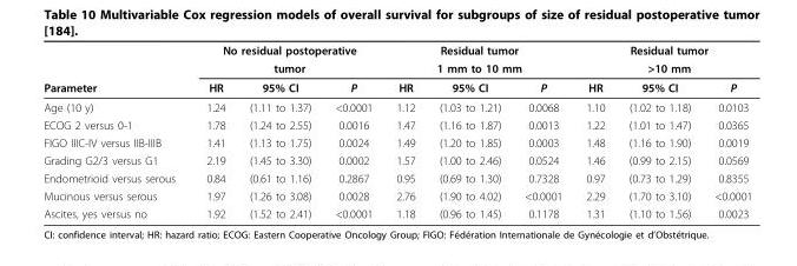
<table><thead><tr><td rowspan="3">Parameter</td><td rowspan="2" colspan="3">No residual postoperative tumor</td><td rowspan="2" colspan="3">Residual tumor 1 mm to 10 mm</td><td rowspan="2" colspan="3">Residual tumor &gt;10 mm</td></tr><tr></tr><tr><td>HR</td><td>95% CI</td><td>P</td><td>HR</td><td>95% CI</td><td>P</td><td>HR</td><td>95% CI</td><td>P</td></tr></thead><tbody><tr><td>Age (10 y)</td><td>1.24</td><td>(1.11 to 1.37)</td><td>&lt;0.0001</td><td>1.12</td><td>(1.03 to 1.21)</td><td>0.0068</td><td>1.10</td><td>(1.02 to 1.18)</td><td>0.0103</td></tr><tr><td>ECOG 2 versus 0-1</td><td>1.78</td><td>(1.24 to 2.55)</td><td>0.0016</td><td>1.47</td><td>(1.16 to 1.87)</td><td>0.0013</td><td>1.22</td><td>(1.01 to 1.47)</td><td>0.0365</td></tr><tr><td>FIGO IIIC-IV versus IIB-IIIB</td><td>1.41</td><td>(1.13 to 1.75)</td><td>0.0024</td><td>1.49</td><td>(1.20 to 1.85)</td><td>0.0003</td><td>1.48</td><td>(1.16 to 1.90)</td><td>0.0019</td></tr><tr><td>Grading G2/3 versus G1</td><td>2.19</td><td>(1.45 to 3.30)</td><td>0.0002</td><td>1.57</td><td>(1.00 to 2.46)</td><td>0.0524</td><td>1.46</td><td>(0.99 to 2.15)</td><td>0.0569</td></tr><tr><td>Endometrioid versus serous</td><td>0.84</td><td>(0.61 to 1.16)</td><td>0.2867</td><td>0.95</td><td>(0.69 to 1.30)</td><td>0.7328</td><td>0.97</td><td>(0.73 to 1.29)</td><td>0.8355</td></tr><tr><td>Mucinous versus serous</td><td>1.97</td><td>(1.26 to 3.08)</td><td>0.0028</td><td>2.76</td><td>(1.90 to 4.02)</td><td>&lt;0.0001</td><td>2.29</td><td>(1.70 to 3.10)</td><td>&lt;0.0001</td></tr><tr><td>Ascites, yes versus no</td><td>1.92</td><td>(1.52 to 2.41)</td><td>&lt;0.0001</td><td>1.18</td><td>(0.96 to 1.45)</td><td>0.1178</td><td>1.31</td><td>(1.10 to 1.56)</td><td>0.0023</td></tr></tbody></table>